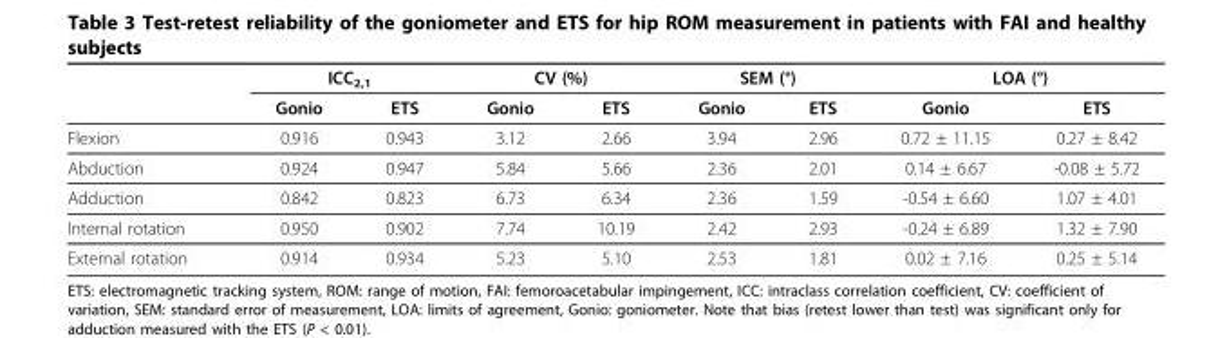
<table><thead><tr><td rowspan="2"></td><td colspan="2">ICC<sub>2,1</sub></td><td colspan="2">CV (%)</td><td colspan="2">SEM (°)</td><td colspan="2">LOA (°)</td></tr><tr><td>Gonio</td><td>ETS</td><td>Gonio</td><td>ETS</td><td>Gonio</td><td>ETS</td><td>Gonio</td><td>ETS</td></tr></thead><tbody><tr><td>Flexion</td><td>0.916</td><td>0.943</td><td>3.12</td><td>2.66</td><td>3.94</td><td>2.96</td><td>0.72 ± 11.15</td><td>0.27 ± 8.42</td></tr><tr><td>Abduction</td><td>0.924</td><td>0.947</td><td>5.84</td><td>5.66</td><td>2.36</td><td>2.01</td><td>0.14 ± 6.67</td><td>-0.08 ± 5.72</td></tr><tr><td>Adduction</td><td>0.842</td><td>0.823</td><td>6.73</td><td>6.34</td><td>2.36</td><td>1.59</td><td>-0.54 ± 6.60</td><td>1.07 ± 4.01</td></tr><tr><td>Internal rotation</td><td>0.950</td><td>0.902</td><td>7.74</td><td>10.19</td><td>2.42</td><td>2.93</td><td>-0.24 ± 6.89</td><td>1.32 ± 7.90</td></tr><tr><td>External rotation</td><td>0.914</td><td>0.934</td><td>5.23</td><td>5.10</td><td>2.53</td><td>1.81</td><td>0.02 ± 7.16</td><td>0.25 ± 5.14</td></tr></tbody></table>